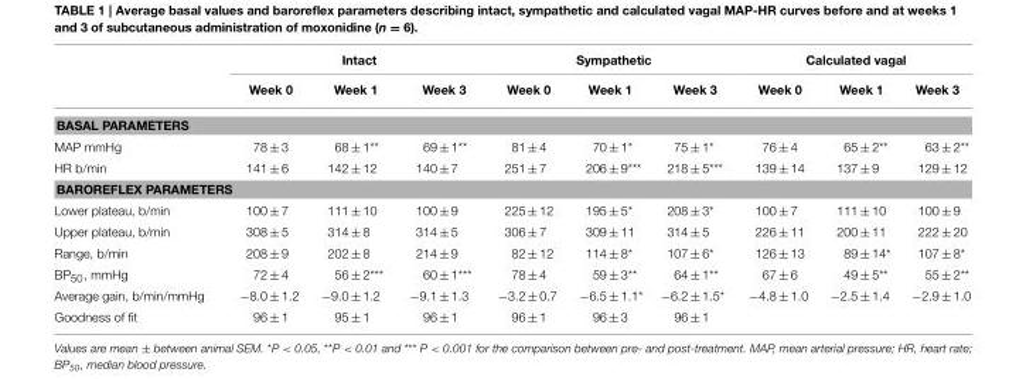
<table><thead><tr><td rowspan="2"></td><td colspan="3">Intact</td><td colspan="3">Sympathetic</td><td colspan="3">Calculated vagal</td></tr><tr><td>Week 0</td><td>Week 1</td><td>Week 3</td><td>Week 0</td><td>Week 1</td><td>Week 3</td><td>Week 0</td><td>Week 1</td><td>Week 3</td></tr></thead><tbody><tr><td colspan="10">BASAL PARAMETERS</td></tr><tr><td>MAP mmHg</td><td>78 ± 3</td><td>68 ± 1**</td><td>69 ± 1**</td><td>81 ± 4</td><td>70 ± 1*</td><td>75 ± 1*</td><td>76 ± 4</td><td>65 ± 2**</td><td>63 ± 2**</td></tr><tr><td>HR b/min</td><td>141 ± 6</td><td>142 ± 12</td><td>140 ± 7</td><td>251 ± 7</td><td>206 ± 9***</td><td>218 ± 5***</td><td>139 ± 14</td><td>137 ± 9</td><td>129 ± 12</td></tr><tr><td colspan="10">BAROREFLEX PARAMETERS</td></tr><tr><td>Lower plateau, b/min</td><td>100 ± 7</td><td>111 ± 10</td><td>100 ± 9</td><td>225 ± 12</td><td>195 ± 5*</td><td>208 ± 3*</td><td>100 ± 7</td><td>111 ± 10</td><td>100 ± 9</td></tr><tr><td>Upper plateau, b/min</td><td>308 ± 5</td><td>314 ± 8</td><td>314 ± 5</td><td>306 ± 7</td><td>309 ± 11</td><td>314 ± 5</td><td>226 ± 11</td><td>200 ± 11</td><td>222 ± 20</td></tr><tr><td>Range, b/min</td><td>208 ± 9</td><td>202 ± 8</td><td>214 ± 9</td><td>82 ± 12</td><td>114 ± 8*</td><td>107 ± 6*</td><td>126 ± 13</td><td>89 ± 14*</td><td>107 ± 8*</td></tr><tr><td>BP<sub>50</sub>, mmHg</td><td>72 ± 4</td><td>56 ± 2***</td><td>60 ± 1***</td><td>78 ± 4</td><td>59 ± 3**</td><td>64 ± 1**</td><td>67 ± 6</td><td>49 ± 5**</td><td>55 ± 2**</td></tr><tr><td>Average gain, b/min/mmHg</td><td>−8.0 ± 1.2</td><td>−9.0 ± 1.2</td><td>−9.1 ± 1.3</td><td>−3.2 ± 0.7</td><td>−6.5 ± 1.1*</td><td>−6.2 ± 1.5*</td><td>−4.8 ± 1.0</td><td>−2.5 ± 1.4</td><td>−2.9 ± 1.0</td></tr><tr><td>Goodness of fit</td><td>96 ± 1</td><td>95 ± 1</td><td>96 ± 1</td><td>96 ± 1</td><td>96 ± 3</td><td>96 ± 1</td><td></td><td></td><td></td></tr></tbody></table>